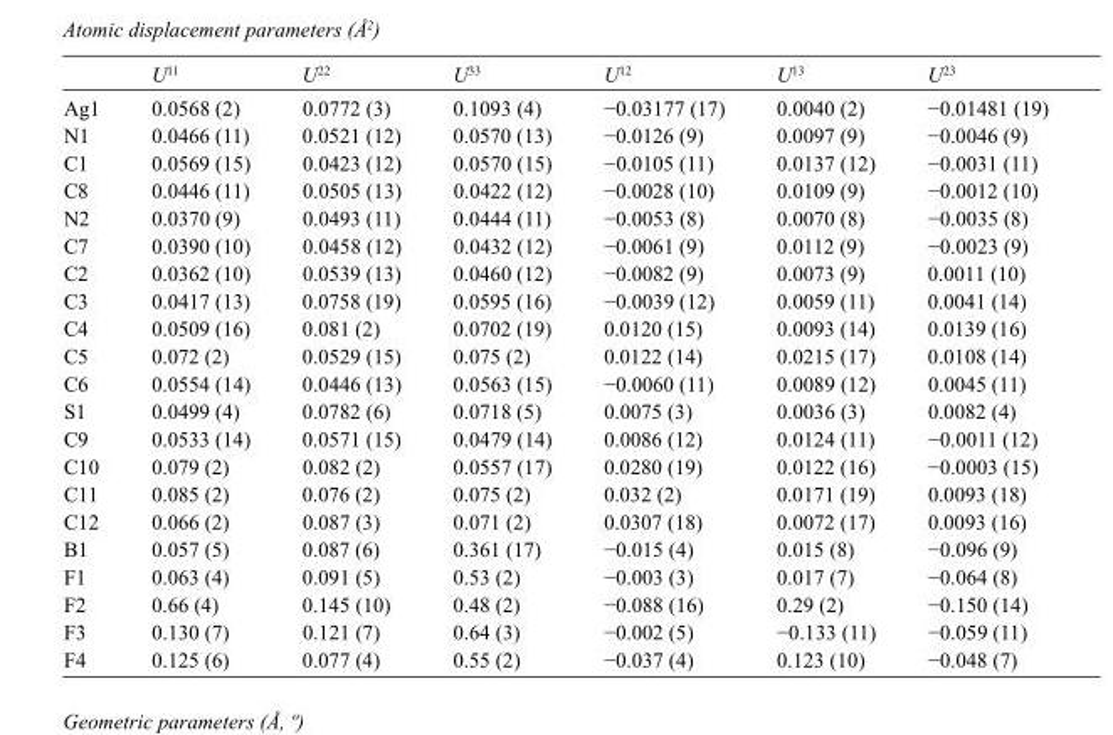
<table><thead><tr><td></td><td>U<sup>11</sup></td><td>U<sup>22</sup></td><td>U<sup>33</sup></td><td>U<sup>12</sup></td><td>U<sup>13</sup></td><td>U<sup>23</sup></td></tr></thead><tbody><tr><td>Ag1</td><td>0.0568 (2)</td><td>0.0772 (3)</td><td>0.1093 (4)</td><td>−0.03177 (17)</td><td>0.0040 (2)</td><td>−0.01481 (19)</td></tr><tr><td>N1</td><td>0.0466 (11)</td><td>0.0521 (12)</td><td>0.0570 (13)</td><td>−0.0126 (9)</td><td>0.0097 (9)</td><td>−0.0046 (9)</td></tr><tr><td>C1</td><td>0.0569 (15)</td><td>0.0423 (12)</td><td>0.0570 (15)</td><td>−0.0105 (11)</td><td>0.0137 (12)</td><td>−0.0031 (11)</td></tr><tr><td>C8</td><td>0.0446 (11)</td><td>0.0505 (13)</td><td>0.0422 (12)</td><td>−0.0028 (10)</td><td>0.0109 (9)</td><td>−0.0012 (10)</td></tr><tr><td>N2</td><td>0.0370 (9)</td><td>0.0493 (11)</td><td>0.0444 (11)</td><td>−0.0053 (8)</td><td>0.0070 (8)</td><td>−0.0035 (8)</td></tr><tr><td>C7</td><td>0.0390 (10)</td><td>0.0458 (12)</td><td>0.0432 (12)</td><td>−0.0061 (9)</td><td>0.0112 (9)</td><td>−0.0023 (9)</td></tr><tr><td>C2</td><td>0.0362 (10)</td><td>0.0539 (13)</td><td>0.0460 (12)</td><td>−0.0082 (9)</td><td>0.0073 (9)</td><td>0.0011 (10)</td></tr><tr><td>C3</td><td>0.0417 (13)</td><td>0.0758 (19)</td><td>0.0595 (16)</td><td>−0.0039 (12)</td><td>0.0059 (11)</td><td>0.0041 (14)</td></tr><tr><td>C4</td><td>0.0509 (16)</td><td>0.081 (2)</td><td>0.0702 (19)</td><td>0.0120 (15)</td><td>0.0093 (14)</td><td>0.0139 (16)</td></tr><tr><td>C5</td><td>0.072 (2)</td><td>0.0529 (15)</td><td>0.075 (2)</td><td>0.0122 (14)</td><td>0.0215 (17)</td><td>0.0108 (14)</td></tr><tr><td>C6</td><td>0.0554 (14)</td><td>0.0446 (13)</td><td>0.0563 (15)</td><td>−0.0060 (11)</td><td>0.0089 (12)</td><td>0.0045 (11)</td></tr><tr><td>S1</td><td>0.0499 (4)</td><td>0.0782 (6)</td><td>0.0718 (5)</td><td>0.0075 (3)</td><td>0.0036 (3)</td><td>0.0082 (4)</td></tr><tr><td>C9</td><td>0.0533 (14)</td><td>0.0571 (15)</td><td>0.0479 (14)</td><td>0.0086 (12)</td><td>0.0124 (11)</td><td>−0.0011 (12)</td></tr><tr><td>C10</td><td>0.079 (2)</td><td>0.082 (2)</td><td>0.0557 (17)</td><td>0.0280 (19)</td><td>0.0122 (16)</td><td>−0.0003 (15)</td></tr><tr><td>C11</td><td>0.085 (2)</td><td>0.076 (2)</td><td>0.075 (2)</td><td>0.032 (2)</td><td>0.0171 (19)</td><td>0.0093 (18)</td></tr><tr><td>C12</td><td>0.066 (2)</td><td>0.087 (3)</td><td>0.071 (2)</td><td>0.0307 (18)</td><td>0.0072 (17)</td><td>0.0093 (16)</td></tr><tr><td>B1</td><td>0.057 (5)</td><td>0.087 (6)</td><td>0.361 (17)</td><td>−0.015 (4)</td><td>0.015 (8)</td><td>−0.096 (9)</td></tr><tr><td>F1</td><td>0.063 (4)</td><td>0.091 (5)</td><td>0.53 (2)</td><td>−0.003 (3)</td><td>0.017 (7)</td><td>−0.064 (8)</td></tr><tr><td>F2</td><td>0.66 (4)</td><td>0.145 (10)</td><td>0.48 (2)</td><td>−0.088 (16)</td><td>0.29 (2)</td><td>−0.150 (14)</td></tr><tr><td>F3</td><td>0.130 (7)</td><td>0.121 (7)</td><td>0.64 (3)</td><td>−0.002 (5)</td><td>−0.133 (11)</td><td>−0.059 (11)</td></tr><tr><td>F4</td><td>0.125 (6)</td><td>0.077 (4)</td><td>0.55 (2)</td><td>−0.037 (4)</td><td>0.123 (10)</td><td>−0.048 (7)</td></tr></tbody></table>